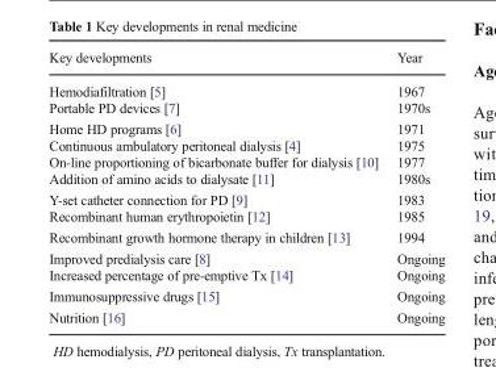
<table><thead><tr><td>Key developments</td><td>Year</td></tr></thead><tbody><tr><td>Hemodiafiltration [5] Portable PD devices [7]</td><td>1967 1970s</td></tr><tr><td>Home HD programs [6] Continuous ambulatory peritoneal dialysis [4] On-line proportioning of bicarbonate buffer for dialysis [10] Addition of amino acids to dialysate [11]</td><td>1971 1975 1977 1980s</td></tr><tr><td>Y-set catheter connection for PD [9] Recombinant human erythropoietin [12]</td><td>1983 1985</td></tr><tr><td>Recombinant growth hormone therapy in children [13]</td><td>1994</td></tr><tr><td>Improved predialysis care [8] Increased percentage of pre-emptive Tx [14]</td><td>Ongoing Ongoing</td></tr><tr><td>Immunosuppressive drugs [15]</td><td>Ongoing</td></tr><tr><td>Nutrition [16]</td><td>Ongoing</td></tr></tbody></table>